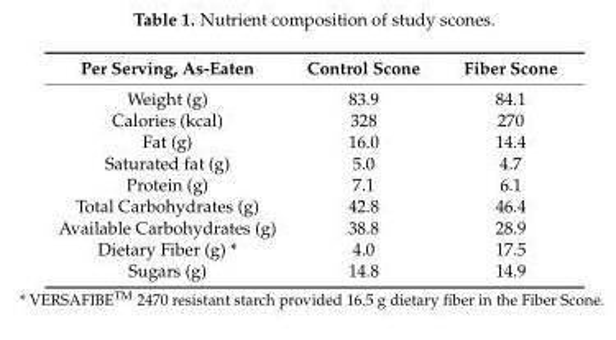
<table><thead><tr><td>Per Serving, As-Eaten</td><td>Control Scone</td><td>Fiber Scone</td></tr></thead><tbody><tr><td>Weight (g)</td><td>83.9</td><td>84.1</td></tr><tr><td>Calories (kcal)</td><td>328</td><td>270</td></tr><tr><td>Fat (g)</td><td>16.0</td><td>14.4</td></tr><tr><td>Saturated fat (g)</td><td>5.0</td><td>4.7</td></tr><tr><td>Protein (g)</td><td>7.1</td><td>6.1</td></tr><tr><td>Total Carbohydrates (g)</td><td>42.8</td><td>46.4</td></tr><tr><td>Available Carbohydrates (g)</td><td>38.8</td><td>28.9</td></tr><tr><td>Dietary Fiber (g) *</td><td>4.0</td><td>17.5</td></tr><tr><td>Sugars (g)</td><td>14.8</td><td>14.9</td></tr></tbody></table>